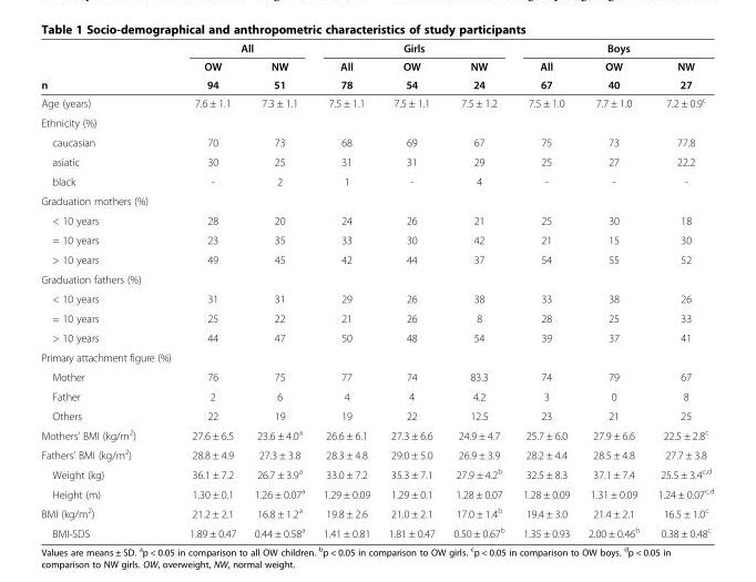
<table><thead><tr><td rowspan="3">n</td><td colspan="2">All</td><td colspan="3">Girls</td><td colspan="3">Boys</td></tr><tr><td rowspan="2">OW 94</td><td rowspan="2">NW 51</td><td rowspan="2">All 78</td><td rowspan="2">OW 54</td><td rowspan="2">NW 24</td><td rowspan="2">All 67</td><td rowspan="2">OW 40</td><td rowspan="2">NW 27</td></tr><tr></tr></thead><tbody><tr><td>Age (years)</td><td>7.6 ± 1.1</td><td>7.3 ± 1.1</td><td>7.5 ± 1.1</td><td>7.5 ± 1.1</td><td>7.5 ± 1.2</td><td>7.5 ± 1.0</td><td>7.7 ± 1.0</td><td>7.2 ± 0.9<sup>c</sup></td></tr><tr><td colspan="9">Ethnicity (%)</td></tr><tr><td>caucasian</td><td>70</td><td>73</td><td>68</td><td>69</td><td>67</td><td>75</td><td>73</td><td>77.8</td></tr><tr><td>asiatic</td><td>30</td><td>25</td><td>31</td><td>31</td><td>29</td><td>25</td><td>27</td><td>22.2</td></tr><tr><td>black</td><td>-</td><td>2</td><td>1</td><td>-</td><td>4</td><td>-</td><td>-</td><td>-</td></tr><tr><td colspan="9">Graduation mothers (%)</td></tr><tr><td>&lt; 10 years</td><td>28</td><td>20</td><td>24</td><td>26</td><td>21</td><td>25</td><td>30</td><td>18</td></tr><tr><td>= 10 years</td><td>23</td><td>35</td><td>33</td><td>30</td><td>42</td><td>21</td><td>15</td><td>30</td></tr><tr><td>&gt; 10 years</td><td>49</td><td>45</td><td>42</td><td>44</td><td>37</td><td>54</td><td>55</td><td>52</td></tr><tr><td colspan="9">Graduation fathers (%)</td></tr><tr><td>&lt; 10 years</td><td>31</td><td>31</td><td>29</td><td>26</td><td>38</td><td>33</td><td>38</td><td>26</td></tr><tr><td>= 10 years</td><td>25</td><td>22</td><td>21</td><td>26</td><td>8</td><td>28</td><td>25</td><td>33</td></tr><tr><td>&gt; 10 years</td><td>44</td><td>47</td><td>50</td><td>48</td><td>54</td><td>39</td><td>37</td><td>41</td></tr><tr><td colspan="9">Primary attachment figure (%)</td></tr><tr><td>Mother</td><td>76</td><td>75</td><td>77</td><td>74</td><td>83.3</td><td>74</td><td>79</td><td>67</td></tr><tr><td>Father</td><td>2</td><td>6</td><td>4</td><td>4</td><td>4.2</td><td>3</td><td>0</td><td>8</td></tr><tr><td>Others</td><td>22</td><td>19</td><td>19</td><td>22</td><td>12.5</td><td>23</td><td>21</td><td>25</td></tr><tr><td>Mothers’ BMI (kg/m<sup>2</sup>)</td><td>27.6 ± 6.5</td><td>23.6 ± 4.0<sup>a</sup></td><td>26.6 ± 6.1</td><td>27.3 ± 6.6</td><td>24.9 ± 4.7</td><td>25.7 ± 6.0</td><td>27.9 ± 6.6</td><td>22.5 ± 2.8<sup>c</sup></td></tr><tr><td>Fathers’ BMI (kg/m<sup>2</sup>)</td><td>28.8 ± 4.9</td><td>27.3 ± 3.8</td><td>28.3 ± 4.8</td><td>29.0 ± 5.0</td><td>26.9 ± 3.9</td><td>28.2 ± 4.4</td><td>28.5 ± 4.8</td><td>27.7 ± 3.8</td></tr><tr><td>Weight (kg)</td><td>36.1 ± 7.2</td><td>26.7 ± 3.9<sup>a</sup></td><td>33.0 ± 7.2</td><td>35.3 ± 7.1</td><td>27.9 ± 4.2<sup>b</sup></td><td>32.5 ± 8.3</td><td>37.1 ± 7.4</td><td>25.5 ± 3.4<sup>c,d</sup></td></tr><tr><td>Height (m)</td><td>1.30 ± 0.1</td><td>1.26 ± 0.07<sup>a</sup></td><td>1.29 ± 0.09</td><td>1.29 ± 0.1</td><td>1.28 ± 0.07</td><td>1.28 ± 0.09</td><td>1.31 ± 0.09</td><td>1.24 ± 0.07<sup>c,d</sup></td></tr><tr><td>BMI (kg/m<sup>2</sup>)</td><td>21.2 ± 2.1</td><td>16.8 ± 1.2<sup>a</sup></td><td>19.8 ± 2.6</td><td>21.0 ± 2.1</td><td>17.0 ± 1.4<sup>b</sup></td><td>19.4 ± 3.0</td><td>21.4 ± 2.1</td><td>16.5 ± 1.0<sup>c</sup></td></tr><tr><td>BMI-SDS</td><td>1.89 ± 0.47</td><td>0.44 ± 0.58<sup>a</sup></td><td>1.41 ± 0.81</td><td>1.81 ± 0.47</td><td>0.50 ± 0.67<sup>b</sup></td><td>1.35 ± 0.93</td><td>2.00 ± 0.46<sup>b</sup></td><td>0.38 ± 0.48<sup>c</sup></td></tr></tbody></table>